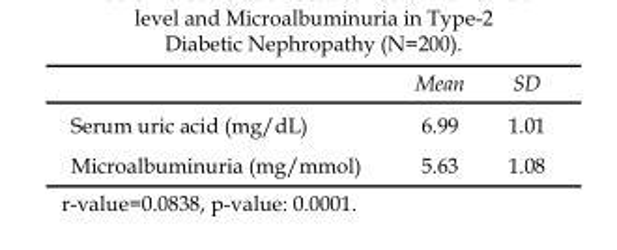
<table><thead><tr><td></td><td>Mean</td><td>SD</td></tr></thead><tbody><tr><td>Serum uric acid (mg/dL)</td><td>6.99</td><td>1.01</td></tr><tr><td>Microalbuminuria (mg/mmol)</td><td>5.63</td><td>1.08</td></tr></tbody></table>